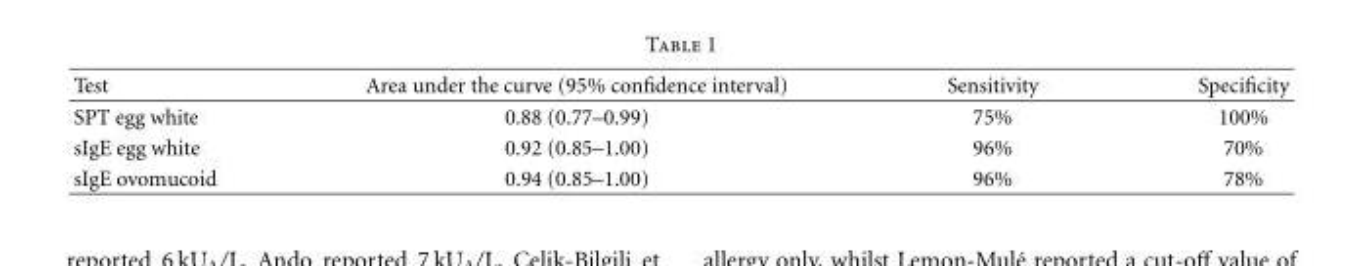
<table><thead><tr><td>Test</td><td>Area under the curve (95% confidence interval)</td><td>Sensitivity</td><td>Specificity</td></tr></thead><tbody><tr><td>SPT egg white</td><td>0.88 (0.77–0.99)</td><td>75%</td><td>100%</td></tr><tr><td>sIgE egg white</td><td>0.92 (0.85–1.00)</td><td>96%</td><td>70%</td></tr><tr><td>sIgE ovomucoid</td><td>0.94 (0.85–1.00)</td><td>96%</td><td>78%</td></tr></tbody></table>